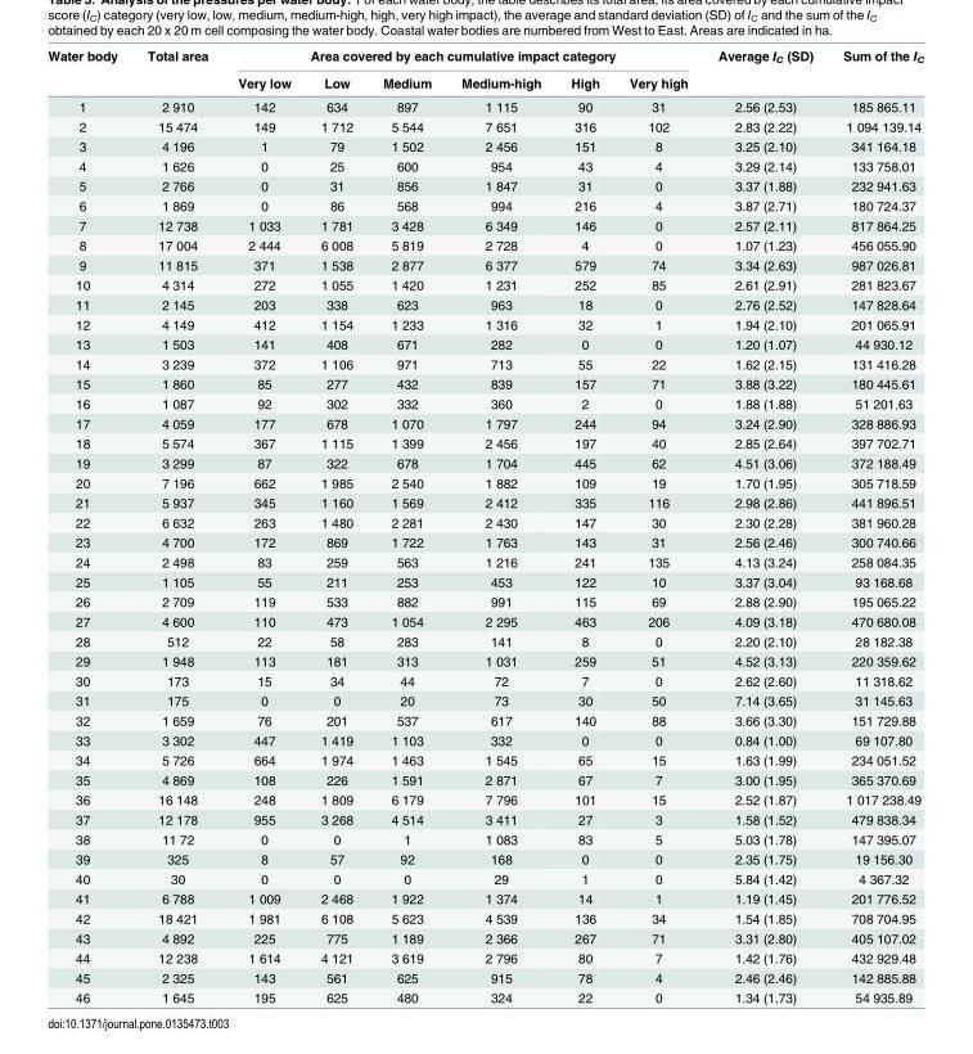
<table><thead><tr><td rowspan="2">Water body</td><td rowspan="2">Total area</td><td colspan="6">Area covered by each cumulative impact category</td><td rowspan="2">Average I<sub>C</sub> (SD)</td><td rowspan="2">Sum of the I<sub>C</sub></td></tr><tr><td>Very low</td><td>Low</td><td>Medium</td><td>Medium-high</td><td>High</td><td>Very high</td></tr></thead><tbody><tr><td>1</td><td>2 910</td><td>142</td><td>634</td><td>897</td><td>1 115</td><td>90</td><td>31</td><td>2.56 (2.53)</td><td>185 865.11</td></tr><tr><td>2</td><td>15 474</td><td>149</td><td>1 712</td><td>5 544</td><td>7 651</td><td>316</td><td>102</td><td>2.83 (2.22)</td><td>1 094 139.14</td></tr><tr><td>3</td><td>4 196</td><td>1</td><td>79</td><td>1 502</td><td>2 456</td><td>151</td><td>8</td><td>3.25 (2.10)</td><td>341 164.18</td></tr><tr><td>4</td><td>1 626</td><td>0</td><td>25</td><td>600</td><td>954</td><td>43</td><td>4</td><td>3.29 (2.14)</td><td>133 758.01</td></tr><tr><td>5</td><td>2 766</td><td>0</td><td>31</td><td>856</td><td>1 847</td><td>31</td><td>0</td><td>3.37 (1.88)</td><td>232 941.63</td></tr><tr><td>6</td><td>1 869</td><td>0</td><td>86</td><td>568</td><td>994</td><td>216</td><td>4</td><td>3.87 (2.71)</td><td>180 724.37</td></tr><tr><td>7</td><td>12 738</td><td>1 033</td><td>1 781</td><td>3 428</td><td>6 349</td><td>146</td><td>0</td><td>2.57 (2.11)</td><td>817 864.25</td></tr><tr><td>8</td><td>17 004</td><td>2 444</td><td>6 008</td><td>5 819</td><td>2 728</td><td>4</td><td>0</td><td>1.07 (1.23)</td><td>456 055.90</td></tr><tr><td>9</td><td>11 815</td><td>371</td><td>1 538</td><td>2 877</td><td>6 377</td><td>579</td><td>74</td><td>3.34 (2.63)</td><td>987 026.81</td></tr><tr><td>10</td><td>4 314</td><td>272</td><td>1 055</td><td>1 420</td><td>1 231</td><td>252</td><td>85</td><td>2.61 (2.91)</td><td>281 823.67</td></tr><tr><td>11</td><td>2 145</td><td>203</td><td>338</td><td>623</td><td>963</td><td>18</td><td>0</td><td>2.76 (2.52)</td><td>147 828.64</td></tr><tr><td>12</td><td>4 149</td><td>412</td><td>1 154</td><td>1 233</td><td>1 316</td><td>32</td><td>1</td><td>1.94 (2.10)</td><td>201 065.91</td></tr><tr><td>13</td><td>1 503</td><td>141</td><td>408</td><td>671</td><td>282</td><td>0</td><td>0</td><td>1.20 (1.07)</td><td>44 930.12</td></tr><tr><td>14</td><td>3 239</td><td>372</td><td>1 106</td><td>971</td><td>713</td><td>55</td><td>22</td><td>1.62 (2.15)</td><td>131 416.28</td></tr><tr><td>15</td><td>1 860</td><td>85</td><td>277</td><td>432</td><td>839</td><td>157</td><td>71</td><td>3.88 (3.22)</td><td>180 445.61</td></tr><tr><td>16</td><td>1 087</td><td>92</td><td>302</td><td>332</td><td>360</td><td>2</td><td>0</td><td>1.88 (1.88)</td><td>51 201.63</td></tr><tr><td>17</td><td>4 059</td><td>177</td><td>678</td><td>1 070</td><td>1 797</td><td>244</td><td>94</td><td>3.24 (2.90)</td><td>328 886.93</td></tr><tr><td>18</td><td>5 574</td><td>367</td><td>1 115</td><td>1 399</td><td>2 456</td><td>197</td><td>40</td><td>2.85 (2.64)</td><td>397 702.71</td></tr><tr><td>19</td><td>3 299</td><td>87</td><td>322</td><td>678</td><td>1 704</td><td>445</td><td>62</td><td>4.51 (3.06)</td><td>372 188.49</td></tr><tr><td>20</td><td>7 196</td><td>662</td><td>1 985</td><td>2 540</td><td>1 882</td><td>109</td><td>19</td><td>1.70 (1.95)</td><td>305 718.59</td></tr><tr><td>21</td><td>5 937</td><td>345</td><td>1 160</td><td>1 569</td><td>2 412</td><td>335</td><td>116</td><td>2.98 (2.86)</td><td>441 896.51</td></tr><tr><td>22</td><td>6 632</td><td>263</td><td>1 480</td><td>2 281</td><td>2 430</td><td>147</td><td>30</td><td>2.30 (2.28)</td><td>381 960.28</td></tr><tr><td>23</td><td>4 700</td><td>172</td><td>869</td><td>1 722</td><td>1 763</td><td>143</td><td>31</td><td>2.56 (2.46)</td><td>300 740.66</td></tr><tr><td>24</td><td>2 498</td><td>83</td><td>259</td><td>563</td><td>1 216</td><td>241</td><td>135</td><td>4.13 (3.24)</td><td>258 084.35</td></tr><tr><td>25</td><td>1 105</td><td>55</td><td>211</td><td>253</td><td>453</td><td>122</td><td>10</td><td>3.37 (3.04)</td><td>93 168.68</td></tr><tr><td>26</td><td>2 709</td><td>119</td><td>533</td><td>882</td><td>991</td><td>115</td><td>69</td><td>2.88 (2.90)</td><td>195 065.22</td></tr><tr><td>27</td><td>4 600</td><td>110</td><td>473</td><td>1 054</td><td>2 295</td><td>463</td><td>206</td><td>4.09 (3.18)</td><td>470 680.08</td></tr><tr><td>28</td><td>512</td><td>22</td><td>58</td><td>283</td><td>141</td><td>8</td><td>0</td><td>2.20 (2.10)</td><td>28 182.38</td></tr><tr><td>29</td><td>1 948</td><td>113</td><td>181</td><td>313</td><td>1 031</td><td>259</td><td>51</td><td>4.52 (3.13)</td><td>220 359.62</td></tr><tr><td>30</td><td>173</td><td>15</td><td>34</td><td>44</td><td>72</td><td>7</td><td>0</td><td>2.62 (2.60)</td><td>11 318.62</td></tr><tr><td>31</td><td>175</td><td>0</td><td>0</td><td>20</td><td>73</td><td>30</td><td>50</td><td>7.14 (3.65)</td><td>31 145.63</td></tr><tr><td>32</td><td>1 659</td><td>76</td><td>201</td><td>537</td><td>617</td><td>140</td><td>88</td><td>3.66 (3.30)</td><td>151 729.88</td></tr><tr><td>33</td><td>3 302</td><td>447</td><td>1 419</td><td>1 103</td><td>332</td><td>0</td><td>0</td><td>0.84 (1.00)</td><td>69 107.80</td></tr><tr><td>34</td><td>5 726</td><td>664</td><td>1 974</td><td>1 463</td><td>1 545</td><td>65</td><td>15</td><td>1.63 (1.99)</td><td>234 051.52</td></tr><tr><td>35</td><td>4 869</td><td>108</td><td>226</td><td>1 591</td><td>2 871</td><td>67</td><td>7</td><td>3.00 (1.95)</td><td>365 370.69</td></tr><tr><td>36</td><td>16 148</td><td>248</td><td>1 809</td><td>6 179</td><td>7 796</td><td>101</td><td>15</td><td>2.52 (1.87)</td><td>1 017 238.49</td></tr><tr><td>37</td><td>12 178</td><td>955</td><td>3 268</td><td>4 514</td><td>3 411</td><td>27</td><td>3</td><td>1.58 (1.52)</td><td>479 838.34</td></tr><tr><td>38</td><td>11 72</td><td>0</td><td>0</td><td>1</td><td>1 083</td><td>83</td><td>5</td><td>5.03 (1.78)</td><td>147 395.07</td></tr><tr><td>39</td><td>325</td><td>8</td><td>57</td><td>92</td><td>168</td><td>0</td><td>0</td><td>2.35 (1.75)</td><td>19 156.30</td></tr><tr><td>40</td><td>30</td><td>0</td><td>0</td><td>0</td><td>29</td><td>1</td><td>0</td><td>5.84 (1.42)</td><td>4 367.32</td></tr><tr><td>41</td><td>6 788</td><td>1 009</td><td>2 468</td><td>1 922</td><td>1 374</td><td>14</td><td>1</td><td>1.19 (1.45)</td><td>201 776.52</td></tr><tr><td>42</td><td>18 421</td><td>1 981</td><td>6 108</td><td>5 623</td><td>4 539</td><td>136</td><td>34</td><td>1.54 (1.85)</td><td>708 704.95</td></tr><tr><td>43</td><td>4 892</td><td>225</td><td>775</td><td>1 189</td><td>2 366</td><td>267</td><td>71</td><td>3.31 (2.80)</td><td>405 107.02</td></tr><tr><td>44</td><td>12 238</td><td>1 614</td><td>4 121</td><td>3 619</td><td>2 796</td><td>80</td><td>7</td><td>1.42 (1.76)</td><td>432 929.48</td></tr><tr><td>45</td><td>2 325</td><td>143</td><td>561</td><td>625</td><td>915</td><td>78</td><td>4</td><td>2.46 (2.46)</td><td>142 885.88</td></tr><tr><td>46</td><td>1 645</td><td>195</td><td>625</td><td>480</td><td>324</td><td>22</td><td>0</td><td>1.34 (1.73)</td><td>54 935.89</td></tr></tbody></table>